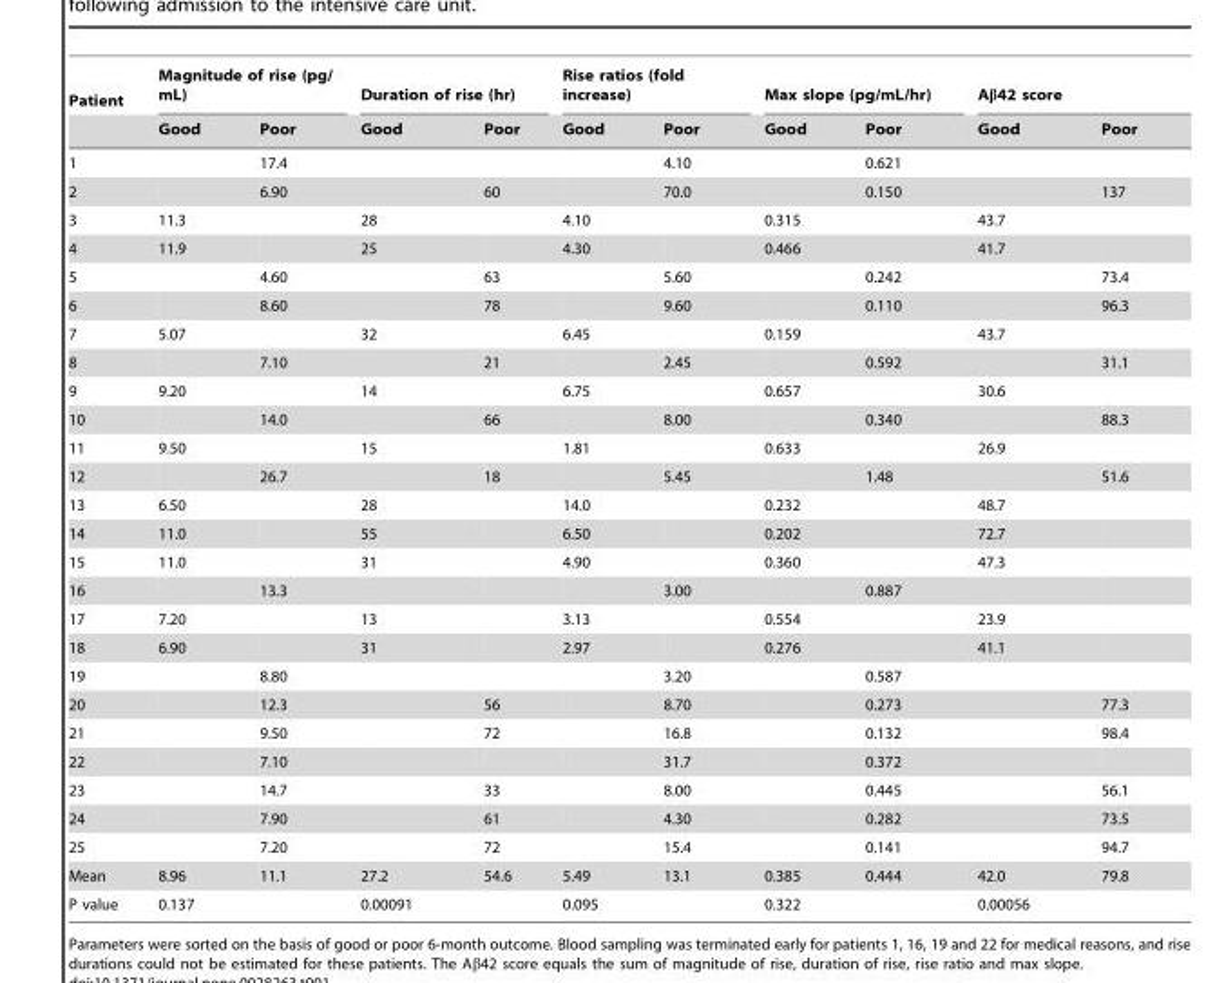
<table><thead><tr><td rowspan="2">Patient</td><td colspan="2">Magnitude of rise (pg/ mL)</td><td colspan="2">Duration of rise (hr)</td><td colspan="2">Rise ratios (fold increase)</td><td colspan="2">Max slope (pg/mL/hr)</td><td colspan="2">Aβ42 score</td></tr><tr><td>Good</td><td>Poor</td><td>Good</td><td>Poor</td><td>Good</td><td>Poor</td><td>Good</td><td>Poor</td><td>Good</td><td>Poor</td></tr></thead><tbody><tr><td>1</td><td></td><td>17.4</td><td></td><td></td><td></td><td>4.10</td><td></td><td>0.621</td><td></td><td></td></tr><tr><td>2</td><td></td><td>6.90</td><td></td><td>60</td><td></td><td>70.0</td><td></td><td>0.150</td><td></td><td>137</td></tr><tr><td>3</td><td>11.3</td><td></td><td>28</td><td></td><td>4.10</td><td></td><td>0.315</td><td></td><td>43.7</td><td></td></tr><tr><td>4</td><td>11.9</td><td></td><td>25</td><td></td><td>4.30</td><td></td><td>0.466</td><td></td><td>41.7</td><td></td></tr><tr><td>5</td><td></td><td>4.60</td><td></td><td>63</td><td></td><td>5.60</td><td></td><td>0.242</td><td></td><td>73.4</td></tr><tr><td>6</td><td></td><td>8.60</td><td></td><td>78</td><td></td><td>9.60</td><td></td><td>0.110</td><td></td><td>96.3</td></tr><tr><td>7</td><td>5.07</td><td></td><td>32</td><td></td><td>6.45</td><td></td><td>0.159</td><td></td><td>43.7</td><td></td></tr><tr><td>8</td><td></td><td>7.10</td><td></td><td>21</td><td></td><td>2.45</td><td></td><td>0.592</td><td></td><td>31.1</td></tr><tr><td>9</td><td>9.20</td><td></td><td>14</td><td></td><td>6.75</td><td></td><td>0.657</td><td></td><td>30.6</td><td></td></tr><tr><td>10</td><td></td><td>14.0</td><td></td><td>66</td><td></td><td>8.00</td><td></td><td>0.340</td><td></td><td>88.3</td></tr><tr><td>11</td><td>9.50</td><td></td><td>15</td><td></td><td>1.81</td><td></td><td>0.633</td><td></td><td>26.9</td><td></td></tr><tr><td>12</td><td></td><td>26.7</td><td></td><td>18</td><td></td><td>5.45</td><td></td><td>1.48</td><td></td><td>51.6</td></tr><tr><td>13</td><td>6.50</td><td></td><td>28</td><td></td><td>14.0</td><td></td><td>0.232</td><td></td><td>48.7</td><td></td></tr><tr><td>14</td><td>11.0</td><td></td><td>55</td><td></td><td>6.50</td><td></td><td>0.202</td><td></td><td>72.7</td><td></td></tr><tr><td>15</td><td>11.0</td><td></td><td>31</td><td></td><td>4.90</td><td></td><td>0.360</td><td></td><td>47.3</td><td></td></tr><tr><td>16</td><td></td><td>13.3</td><td></td><td></td><td></td><td>3.00</td><td></td><td>0.887</td><td></td><td></td></tr><tr><td>17</td><td>7.20</td><td></td><td>13</td><td></td><td>3.13</td><td></td><td>0.554</td><td></td><td>23.9</td><td></td></tr><tr><td>18</td><td>6.90</td><td></td><td>31</td><td></td><td>2.97</td><td></td><td>0.276</td><td></td><td>41.1</td><td></td></tr><tr><td>19</td><td></td><td>8.80</td><td></td><td></td><td></td><td>3.20</td><td></td><td>0.587</td><td></td><td></td></tr><tr><td>20</td><td></td><td>12.3</td><td></td><td>56</td><td></td><td>8.70</td><td></td><td>0.273</td><td></td><td>77.3</td></tr><tr><td>21</td><td></td><td>9.50</td><td></td><td>72</td><td></td><td>16.8</td><td></td><td>0.132</td><td></td><td>98.4</td></tr><tr><td>22</td><td></td><td>7.10</td><td></td><td></td><td></td><td>31.7</td><td></td><td>0.372</td><td></td><td></td></tr><tr><td>23</td><td></td><td>14.7</td><td></td><td>33</td><td></td><td>8.00</td><td></td><td>0.445</td><td></td><td>56.1</td></tr><tr><td>24</td><td></td><td>7.90</td><td></td><td>61</td><td></td><td>4.30</td><td></td><td>0.282</td><td></td><td>73.5</td></tr><tr><td>25</td><td></td><td>7.20</td><td></td><td>72</td><td></td><td>15.4</td><td></td><td>0.141</td><td></td><td>94.7</td></tr><tr><td>Mean</td><td>8.96</td><td>11.1</td><td>27.2</td><td>54.6</td><td>5.49</td><td>13.1</td><td>0.385</td><td>0.444</td><td>42.0</td><td>79.8</td></tr><tr><td>P value</td><td colspan="2">0.137</td><td colspan="2">0.00091</td><td colspan="2">0.095</td><td colspan="2">0.322</td><td colspan="2">0.00056</td></tr></tbody></table>